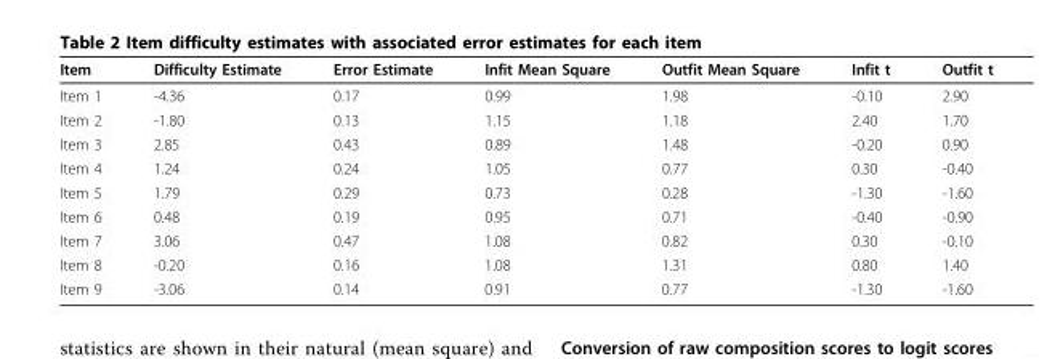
<table><thead><tr><td>Item</td><td>Difficulty Estimate</td><td>Error Estimate</td><td>Infit Mean Square</td><td>Outfit Mean Square</td><td>Infit t</td><td>Outfit t</td></tr></thead><tbody><tr><td>Item 1</td><td>-4.36</td><td>0.17</td><td>0.99</td><td>1.98</td><td>-0.10</td><td>2.90</td></tr><tr><td>Item 2</td><td>-1.80</td><td>0.13</td><td>1.15</td><td>1.18</td><td>2.40</td><td>1.70</td></tr><tr><td>Item 3</td><td>2.85</td><td>0.43</td><td>0.89</td><td>1.48</td><td>-0.20</td><td>0.90</td></tr><tr><td>Item 4</td><td>1.24</td><td>0.24</td><td>1.05</td><td>0.77</td><td>0.30</td><td>-0.40</td></tr><tr><td>Item 5</td><td>1.79</td><td>0.29</td><td>0.73</td><td>0.28</td><td>-1.30</td><td>-1.60</td></tr><tr><td>Item 6</td><td>0.48</td><td>0.19</td><td>0.95</td><td>0.71</td><td>-0.40</td><td>-0.90</td></tr><tr><td>Item 7</td><td>3.06</td><td>0.47</td><td>1.08</td><td>0.82</td><td>0.30</td><td>-0.10</td></tr><tr><td>Item 8</td><td>-0.20</td><td>0.16</td><td>1.08</td><td>1.31</td><td>0.80</td><td>1.40</td></tr><tr><td>Item 9</td><td>-3.06</td><td>0.14</td><td>0.91</td><td>0.77</td><td>-1.30</td><td>-1.60</td></tr></tbody></table>